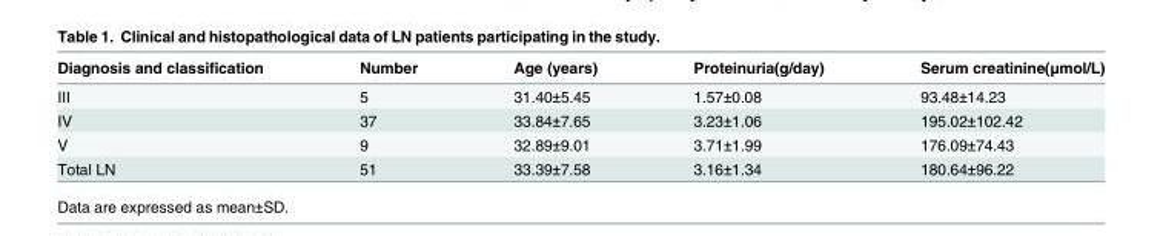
<table><thead><tr><td>Diagnosis and classification</td><td>Number</td><td>Age (years)</td><td>Proteinuria(g/day)</td><td>Serum creatinine(μmol/L)</td></tr></thead><tbody><tr><td>III</td><td>5</td><td>31.40±5.45</td><td>1.57±0.08</td><td>93.48±14.23</td></tr><tr><td>IV</td><td>37</td><td>33.84±7.65</td><td>3.23±1.06</td><td>195.02±102.42</td></tr><tr><td>V</td><td>9</td><td>32.89±9.01</td><td>3.71±1.99</td><td>176.09±74.43</td></tr><tr><td>Total LN</td><td>51</td><td>33.39±7.58</td><td>3.16±1.34</td><td>180.64±96.22</td></tr></tbody></table>